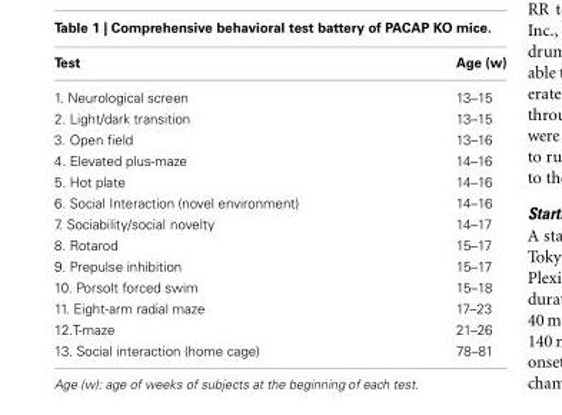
<table><thead><tr><td>Test</td><td>Age (w)</td></tr></thead><tbody><tr><td>1. Neurological screen</td><td>13–15</td></tr><tr><td>2. Light/dark transition</td><td>13–15</td></tr><tr><td>3. Open field</td><td>13–16</td></tr><tr><td>4. Elevated plus-maze</td><td>14–16</td></tr><tr><td>5. Hot plate</td><td>14–16</td></tr><tr><td>6. Social Interaction (novel environment)</td><td>14–16</td></tr><tr><td>7. Sociability/social novelty</td><td>14–17</td></tr><tr><td>8. Rotarod</td><td>15–17</td></tr><tr><td>9. Prepulse inhibition</td><td>15–17</td></tr><tr><td>10. Porsolt forced swim</td><td>15–18</td></tr><tr><td>11. Eight-arm radial maze</td><td>17–23</td></tr><tr><td>12.T-maze</td><td>21–26</td></tr><tr><td>13. Social interaction (home cage)</td><td>78–81</td></tr></tbody></table>